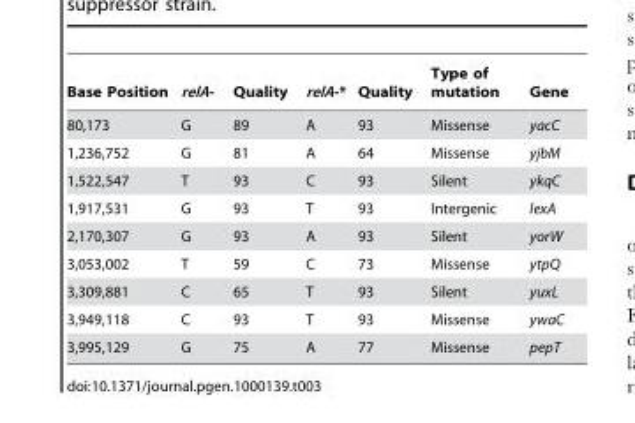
<table><thead><tr><td>Base Position</td><td>relA-</td><td>Quality</td><td>relA-*</td><td>Quality</td><td>Type of mutation</td><td>Gene</td></tr></thead><tbody><tr><td>80,173</td><td>G</td><td>89</td><td>A</td><td>93</td><td>Missense</td><td>yacC</td></tr><tr><td>1,236,752</td><td>G</td><td>81</td><td>A</td><td>64</td><td>Missense</td><td>yjbM</td></tr><tr><td>1,522,547</td><td>T</td><td>93</td><td>C</td><td>93</td><td>Silent</td><td>ykqC</td></tr><tr><td>1,917,531</td><td>G</td><td>93</td><td>T</td><td>93</td><td>Intergenic</td><td>lexA</td></tr><tr><td>2,170,307</td><td>G</td><td>93</td><td>A</td><td>93</td><td>Silent</td><td>yorW</td></tr><tr><td>3,053,002</td><td>T</td><td>59</td><td>C</td><td>73</td><td>Missense</td><td>ytpQ</td></tr><tr><td>3,309,881</td><td>C</td><td>65</td><td>T</td><td>93</td><td>Silent</td><td>yuxL</td></tr><tr><td>3,949,118</td><td>C</td><td>93</td><td>T</td><td>93</td><td>Missense</td><td>ywaC</td></tr><tr><td>3,995,129</td><td>G</td><td>75</td><td>A</td><td>77</td><td>Missense</td><td>pepT</td></tr></tbody></table>